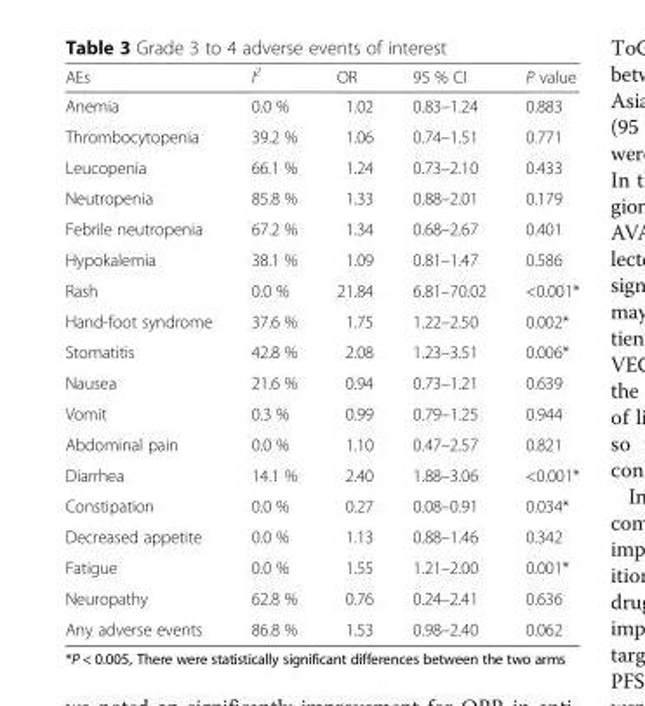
<table><thead><tr><td>AEs</td><td>I<sup>2</sup></td><td>OR</td><td>95 % CI</td><td>P value</td></tr></thead><tbody><tr><td>Anemia</td><td>0.0 %</td><td>1.02</td><td>0.83–1.24</td><td>0.883</td></tr><tr><td>Thrombocytopenia</td><td>39.2 %</td><td>1.06</td><td>0.74–1.51</td><td>0.771</td></tr><tr><td>Leucopenia</td><td>66.1 %</td><td>1.24</td><td>0.73–2.10</td><td>0.433</td></tr><tr><td>Neutropenia</td><td>85.8 %</td><td>1.33</td><td>0.88–2.01</td><td>0.179</td></tr><tr><td>Febrile neutropenia</td><td>67.2 %</td><td>1.34</td><td>0.68–2.67</td><td>0.401</td></tr><tr><td>Hypokalemia</td><td>38.1 %</td><td>1.09</td><td>0.81–1.47</td><td>0.586</td></tr><tr><td>Rash</td><td>0.0 %</td><td>21.84</td><td>6.81–70.02</td><td>&lt;0.001*</td></tr><tr><td>Hand-foot syndrome</td><td>37.6 %</td><td>1.75</td><td>1.22–2.50</td><td>0.002*</td></tr><tr><td>Stomatitis</td><td>42.8 %</td><td>2.08</td><td>1.23–3.51</td><td>0.006*</td></tr><tr><td>Nausea</td><td>21.6 %</td><td>0.94</td><td>0.73–1.21</td><td>0.639</td></tr><tr><td>Vomit</td><td>0.3 %</td><td>0.99</td><td>0.79–1.25</td><td>0.944</td></tr><tr><td>Abdominal pain</td><td>0.0 %</td><td>1.10</td><td>0.47–2.57</td><td>0.821</td></tr><tr><td>Diarrhea</td><td>14.1 %</td><td>2.40</td><td>1.88–3.06</td><td>&lt;0.001*</td></tr><tr><td>Constipation</td><td>0.0 %</td><td>0.27</td><td>0.08–0.91</td><td>0.034*</td></tr><tr><td>Decreased appetite</td><td>0.0 %</td><td>1.13</td><td>0.88–1.46</td><td>0.342</td></tr><tr><td>Fatigue</td><td>0.0 %</td><td>1.55</td><td>1.21–2.00</td><td>0.001*</td></tr><tr><td>Neuropathy</td><td>62.8 %</td><td>0.76</td><td>0.24–2.41</td><td>0.636</td></tr><tr><td>Any adverse events</td><td>86.8 %</td><td>1.53</td><td>0.98–2.40</td><td>0.062</td></tr></tbody></table>